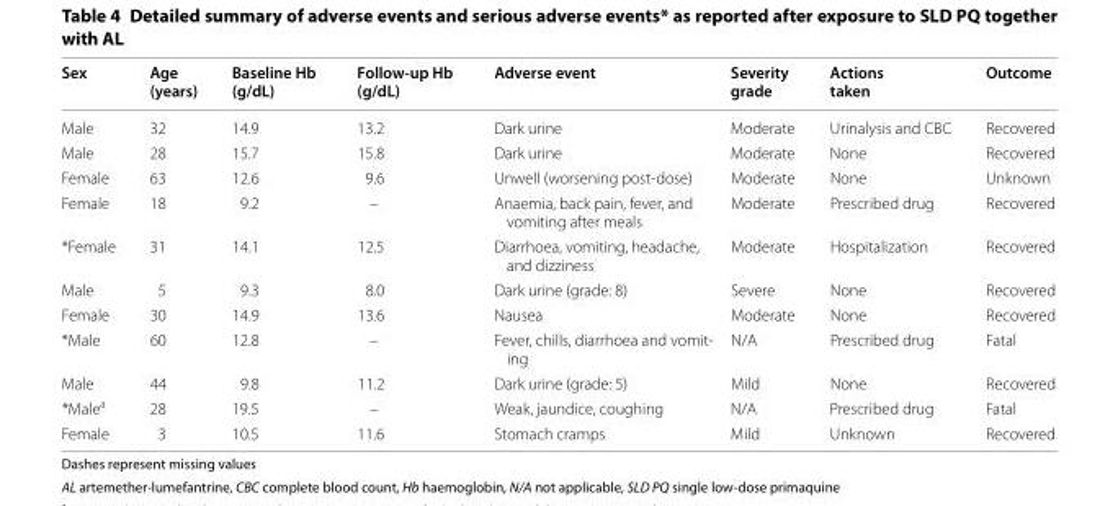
<table><thead><tr><td>Sex</td><td>Age (years)</td><td>Baseline Hb (g/dL)</td><td>Follow‑up Hb (g/dL)</td><td>Adverse event</td><td>Severity grade</td><td>Actions taken</td><td>Outcome</td></tr></thead><tbody><tr><td>Male</td><td>32</td><td>14.9</td><td>13.2</td><td>Dark urine</td><td>Moderate</td><td>Urinalysis and CBC</td><td>Recovered</td></tr><tr><td>Male</td><td>28</td><td>15.7</td><td>15.8</td><td>Dark urine</td><td>Moderate</td><td>None</td><td>Recovered</td></tr><tr><td>Female</td><td>63</td><td>12.6</td><td>9.6</td><td>Unwell (worsening post-dose)</td><td>Moderate</td><td>None</td><td>Unknown</td></tr><tr><td>Female</td><td>18</td><td>9.2</td><td>–</td><td>Anaemia, back pain, fever, and vomiting after meals</td><td>Moderate</td><td>Prescribed drug</td><td>Recovered</td></tr><tr><td>*Female</td><td>31</td><td>14.1</td><td>12.5</td><td>Diarrhoea, vomiting, headache, and dizziness</td><td>Moderate</td><td>Hospitalization</td><td>Recovered</td></tr><tr><td>Male</td><td>5</td><td>9.3</td><td>8.0</td><td>Dark urine (grade: 8)</td><td>Severe</td><td>None</td><td>Recovered</td></tr><tr><td>Female</td><td>30</td><td>14.9</td><td>13.6</td><td>Nausea</td><td>Moderate</td><td>None</td><td>Recovered</td></tr><tr><td>*Male</td><td>60</td><td>12.8</td><td>–</td><td>Fever, chills, diarrhoea and vomit- ing</td><td>N/A</td><td>Prescribed drug</td><td>Fatal</td></tr><tr><td>Male</td><td>44</td><td>9.8</td><td>11.2</td><td>Dark urine (grade: 5)</td><td>Mild</td><td>None</td><td>Recovered</td></tr><tr><td>*Male<sup>a</sup></td><td>28</td><td>19.5</td><td>–</td><td>Weak, jaundice, coughing</td><td>N/A</td><td>Prescribed drug</td><td>Fatal</td></tr><tr><td>Female</td><td>3</td><td>10.5</td><td>11.6</td><td>Stomach cramps</td><td>Mild</td><td>Unknown</td><td>Recovered</td></tr></tbody></table>